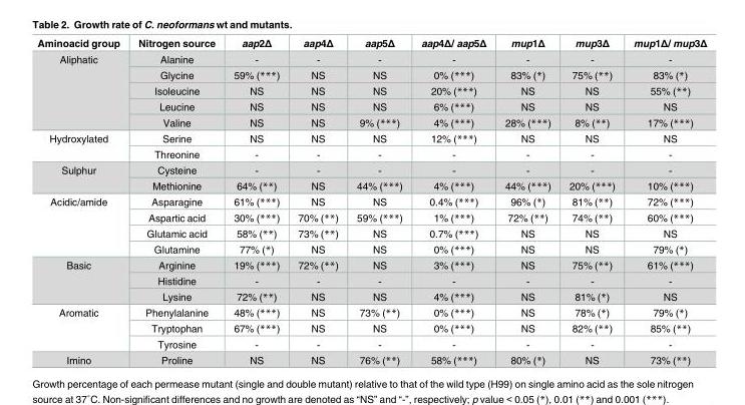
<table><thead><tr><td>Aminoacid group</td><td>Nitrogen source</td><td>aap2Δ</td><td>aap4Δ</td><td>aap5Δ</td><td>aap4Δ/ aap5Δ</td><td>mup1Δ</td><td>mup3Δ</td><td>mup1Δ/ mup3Δ</td></tr></thead><tbody><tr><td rowspan="5">Aliphatic</td><td>Alanine</td><td>-</td><td>-</td><td>-</td><td>-</td><td>-</td><td>-</td><td>-</td></tr><tr><td>Glycine</td><td>59% (***)</td><td>NS</td><td>NS</td><td>0% (***)</td><td>83% (*)</td><td>75% (**)</td><td>83% (*)</td></tr><tr><td>Isoleucine</td><td>NS</td><td>NS</td><td>NS</td><td>20% (***)</td><td>NS</td><td>NS</td><td>55% (**)</td></tr><tr><td>Leucine</td><td>NS</td><td>NS</td><td>NS</td><td>6% (***)</td><td>NS</td><td>NS</td><td>NS</td></tr><tr><td>Valine</td><td>NS</td><td>NS</td><td>9% (***)</td><td>4% (***)</td><td>28% (***)</td><td>8% (**)</td><td>17% (***)</td></tr><tr><td rowspan="2">Hydroxylated</td><td>Serine</td><td>NS</td><td>NS</td><td>NS</td><td>12% (***)</td><td>NS</td><td>NS</td><td>NS</td></tr><tr><td>Threonine</td><td>-</td><td>-</td><td>-</td><td>-</td><td>-</td><td>-</td><td>-</td></tr><tr><td rowspan="2">Sulphur</td><td>Cysteine</td><td>-</td><td>-</td><td>-</td><td>-</td><td>-</td><td>-</td><td>-</td></tr><tr><td>Methionine</td><td>64% (**)</td><td>NS</td><td>44% (***)</td><td>4% (***)</td><td>44% (***)</td><td>20% (***)</td><td>10% (***)</td></tr><tr><td rowspan="4">Acidic/amide</td><td>Asparagine</td><td>61% (***)</td><td>NS</td><td>NS</td><td>0.4% (***)</td><td>96% (*)</td><td>81% (**)</td><td>72% (***)</td></tr><tr><td>Aspartic acid</td><td>30% (***)</td><td>70% (**)</td><td>59% (***)</td><td>1% (***)</td><td>72% (**)</td><td>74% (**)</td><td>60% (***)</td></tr><tr><td>Glutamic acid</td><td>58% (**)</td><td>73% (**)</td><td>NS</td><td>0.7% (***)</td><td>NS</td><td>NS</td><td>NS</td></tr><tr><td>Glutamine</td><td>77% (*)</td><td>NS</td><td>NS</td><td>0% (***)</td><td>NS</td><td>NS</td><td>79% (*)</td></tr><tr><td rowspan="3">Basic</td><td>Arginine</td><td>19% (***)</td><td>72% (**)</td><td>NS</td><td>3% (***)</td><td>NS</td><td>75% (**)</td><td>61% (***)</td></tr><tr><td>Histidine</td><td>-</td><td>-</td><td>-</td><td>-</td><td>-</td><td>-</td><td>-</td></tr><tr><td>Lysine</td><td>72% (**)</td><td>NS</td><td>NS</td><td>4% (***)</td><td>NS</td><td>81% (*)</td><td>NS</td></tr><tr><td rowspan="3">Aromatic</td><td>Phenylalanine</td><td>48% (***)</td><td>NS</td><td>73% (**)</td><td>0% (***)</td><td>NS</td><td>78% (*)</td><td>79% (*)</td></tr><tr><td>Tryptophan</td><td>67% (***)</td><td>NS</td><td>NS</td><td>0% (***)</td><td>NS</td><td>82% (**)</td><td>85% (**)</td></tr><tr><td>Tyrosine</td><td>-</td><td>-</td><td>-</td><td>-</td><td>-</td><td>-</td><td>-</td></tr><tr><td>Imino</td><td>Proline</td><td>NS</td><td>NS</td><td>76% (**)</td><td>58% (***)</td><td>80% (*)</td><td>NS</td><td>73% (**)</td></tr></tbody></table>